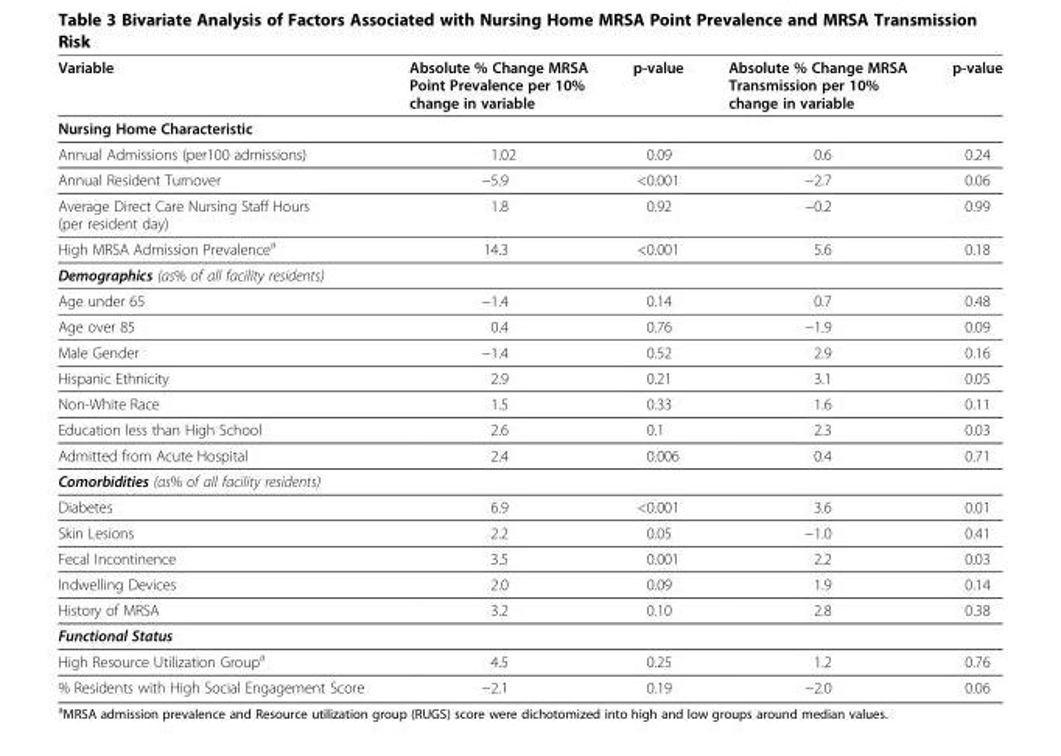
<table><thead><tr><td>Variable</td><td>Absolute % Change MRSA Point Prevalence per 10% change in variable</td><td>p-value</td><td>Absolute % Change MRSA Transmission per 10% change in variable</td><td>p-value</td></tr></thead><tbody><tr><td colspan="5">Nursing Home Characteristic</td></tr><tr><td>Annual Admissions (per100 admissions)</td><td>1.02</td><td>0.09</td><td>0.6</td><td>0.24</td></tr><tr><td>Annual Resident Turnover</td><td>−5.9</td><td>&lt;0.001</td><td>−2.7</td><td>0.06</td></tr><tr><td>Average Direct Care Nursing Staff Hours (per resident day)</td><td>1.8</td><td>0.92</td><td>−0.2</td><td>0.99</td></tr><tr><td>High MRSA Admission Prevalence<sup>a</sup></td><td>14.3</td><td>&lt;0.001</td><td>5.6</td><td>0.18</td></tr><tr><td colspan="5">Demographics (as% of all facility residents)</td></tr><tr><td>Age under 65</td><td>−1.4</td><td>0.14</td><td>0.7</td><td>0.48</td></tr><tr><td>Age over 85</td><td>0.4</td><td>0.76</td><td>−1.9</td><td>0.09</td></tr><tr><td>Male Gender</td><td>−1.4</td><td>0.52</td><td>2.9</td><td>0.16</td></tr><tr><td>Hispanic Ethnicity</td><td>2.9</td><td>0.21</td><td>3.1</td><td>0.05</td></tr><tr><td>Non-White Race</td><td>1.5</td><td>0.33</td><td>1.6</td><td>0.11</td></tr><tr><td>Education less than High School</td><td>2.6</td><td>0.1</td><td>2.3</td><td>0.03</td></tr><tr><td>Admitted from Acute Hospital</td><td>2.4</td><td>0.006</td><td>0.4</td><td>0.71</td></tr><tr><td colspan="5">Comorbidities (as% of all facility residents)</td></tr><tr><td>Diabetes</td><td>6.9</td><td>&lt;0.001</td><td>3.6</td><td>0.01</td></tr><tr><td>Skin Lesions</td><td>2.2</td><td>0.05</td><td>−1.0</td><td>0.41</td></tr><tr><td>Fecal Incontinence</td><td>3.5</td><td>0.001</td><td>2.2</td><td>0.03</td></tr><tr><td>Indwelling Devices</td><td>2.0</td><td>0.09</td><td>1.9</td><td>0.14</td></tr><tr><td>History of MRSA</td><td>3.2</td><td>0.10</td><td>2.8</td><td>0.38</td></tr><tr><td colspan="5">Functional Status</td></tr><tr><td>High Resource Utilization Group<sup>a</sup></td><td>4.5</td><td>0.25</td><td>1.2</td><td>0.76</td></tr><tr><td>% Residents with High Social Engagement Score</td><td>−2.1</td><td>0.19</td><td>−2.0</td><td>0.06</td></tr></tbody></table>